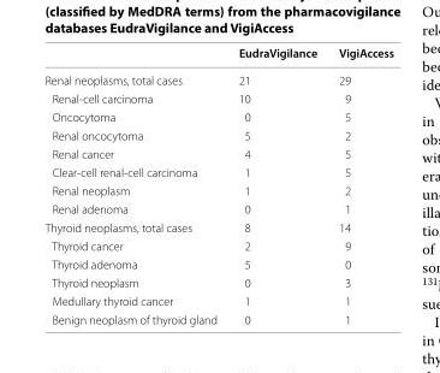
<table><thead><tr><td></td><td>EudraVigilance</td><td>VigiAccess</td></tr></thead><tbody><tr><td>Renal neoplasms, total cases</td><td>21</td><td>29</td></tr><tr><td>Renal-cell carcinoma</td><td>10</td><td>9</td></tr><tr><td>Oncocytoma</td><td>0</td><td>5</td></tr><tr><td>Renal oncocytoma</td><td>5</td><td>2</td></tr><tr><td>Renal cancer</td><td>4</td><td>5</td></tr><tr><td>Clear-cell renal-cell carcinoma</td><td>1</td><td>5</td></tr><tr><td>Renal neoplasm</td><td>1</td><td>2</td></tr><tr><td>Renal adenoma</td><td>0</td><td>1</td></tr><tr><td>Thyroid neoplasms, total cases</td><td>8</td><td>14</td></tr><tr><td>Thyroid cancer</td><td>2</td><td>9</td></tr><tr><td>Thyroid adenoma</td><td>5</td><td>0</td></tr><tr><td>Thyroid neoplasm</td><td>0</td><td>3</td></tr><tr><td>Medullary thyroid cancer</td><td>1</td><td>1</td></tr><tr><td>Benign neoplasm of thyroid gland</td><td>0</td><td>1</td></tr></tbody></table>